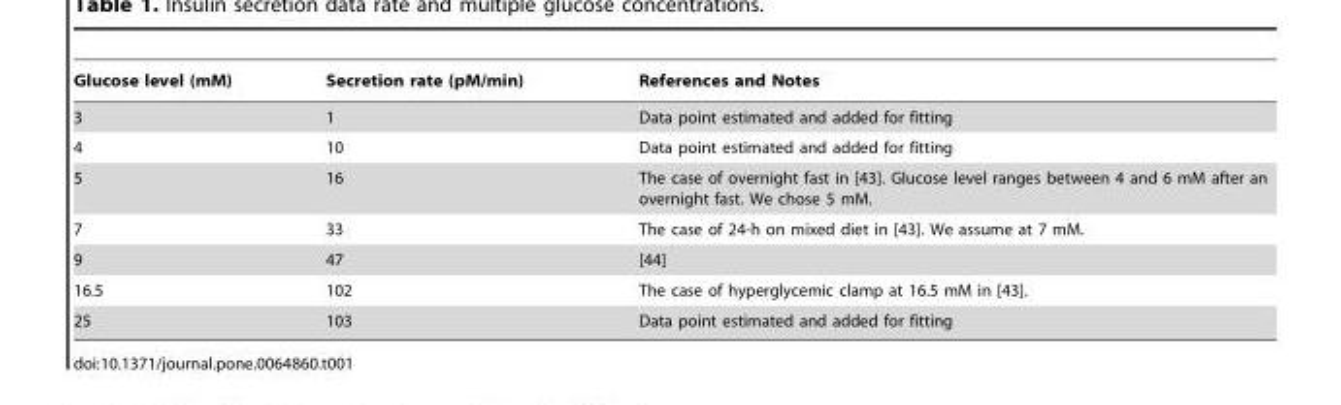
<table><thead><tr><td>Glucose level (mM)</td><td>Secretion rate (pM/min)</td><td>References and Notes</td></tr></thead><tbody><tr><td>3</td><td>1</td><td>Data point estimated and added for fitting</td></tr><tr><td>4</td><td>10</td><td>Data point estimated and added for fitting</td></tr><tr><td>5</td><td>16</td><td>The case of overnight fast in [43]. Glucose level ranges between 4 and 6 mM after an overnight fast. We chose 5 mM.</td></tr><tr><td>7</td><td>33</td><td>The case of 24-h on mixed diet in [43]. We assume at 7 mM.</td></tr><tr><td>9</td><td>47</td><td>[44]</td></tr><tr><td>16.5</td><td>102</td><td>The case of hyperglycemic clamp at 16.5 mM in [43].</td></tr><tr><td>25</td><td>103</td><td>Data point estimated and added for fitting</td></tr></tbody></table>